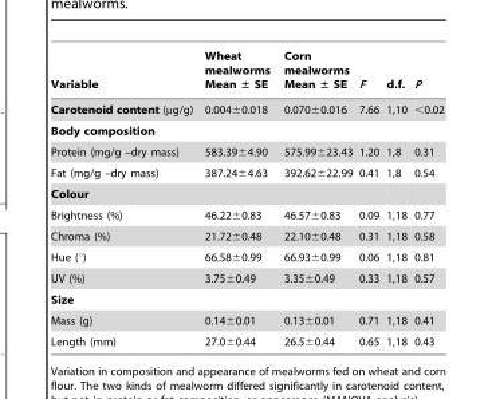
<table><thead><tr><td>Variable</td><td>Wheat mealworms Mean ± SE</td><td>Corn mealworms Mean ± SE</td><td>F</td><td>d.f.</td><td>P</td></tr></thead><tbody><tr><td>Carotenoid content (µg/g)</td><td>0.004±0.018</td><td>0.070±0.016</td><td>7.66</td><td>1,10</td><td>&lt;0.02</td></tr><tr><td colspan="6">Body composition</td></tr><tr><td>Protein (mg/g –dry mass)</td><td>583.39±4.90</td><td>575.99±23.43</td><td>1.20</td><td>1,8</td><td>0.31</td></tr><tr><td>Fat (mg/g –dry mass)</td><td>387.24±4.63</td><td>392.62±22.99</td><td>0.41</td><td>1,8</td><td>0.54</td></tr><tr><td colspan="6">Colour</td></tr><tr><td>Brightness (%)</td><td>46.22±0.83</td><td>46.57±0.83</td><td>0.09</td><td>1,18</td><td>0.77</td></tr><tr><td>Chroma (%)</td><td>21.72±0.48</td><td>22.10±0.48</td><td>0.31</td><td>1,18</td><td>0.58</td></tr><tr><td>Hue (°)</td><td>66.58±0.99</td><td>66.93±0.99</td><td>0.06</td><td>1,18</td><td>0.81</td></tr><tr><td>UV (%)</td><td>3.75±0.49</td><td>3.35±0.49</td><td>0.33</td><td>1,18</td><td>0.57</td></tr><tr><td colspan="6">Size</td></tr><tr><td>Mass (g)</td><td>0.14±0.01</td><td>0.13±0.01</td><td>0.71</td><td>1,18</td><td>0.41</td></tr><tr><td>Length (mm)</td><td>27.0±0.44</td><td>26.5±0.44</td><td>0.65</td><td>1,18</td><td>0.43</td></tr></tbody></table>